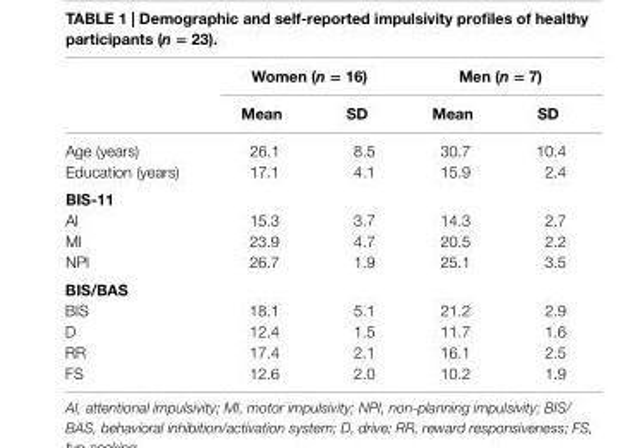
<table><thead><tr><td rowspan="2"></td><td colspan="2">Women (n = 16)</td><td colspan="2">Men (n = 7)</td></tr><tr><td>Mean</td><td>sD</td><td>Mean</td><td>sD</td></tr></thead><tbody><tr><td>Age (years)</td><td>26.1</td><td>8.5</td><td>30.7</td><td>10.4</td></tr><tr><td>Education (years)</td><td>17.1</td><td>4.1</td><td>15.9</td><td>2.4</td></tr><tr><td colspan="5">Bis-11</td></tr><tr><td>AI</td><td>15.3</td><td>3.7</td><td>14.3</td><td>2.7</td></tr><tr><td>MI</td><td>23.9</td><td>4.7</td><td>20.5</td><td>2.2</td></tr><tr><td>NPI</td><td>26.7</td><td>1.9</td><td>25.1</td><td>3.5</td></tr><tr><td colspan="5">Bis/Bas</td></tr><tr><td>BIS</td><td>18.1</td><td>5.1</td><td>21.2</td><td>2.9</td></tr><tr><td>D</td><td>12.4</td><td>1.5</td><td>11.7</td><td>1.6</td></tr><tr><td>RR</td><td>17.4</td><td>2.1</td><td>16.1</td><td>2.5</td></tr><tr><td>FS</td><td>12.6</td><td>2.0</td><td>10.2</td><td>1.9</td></tr></tbody></table>